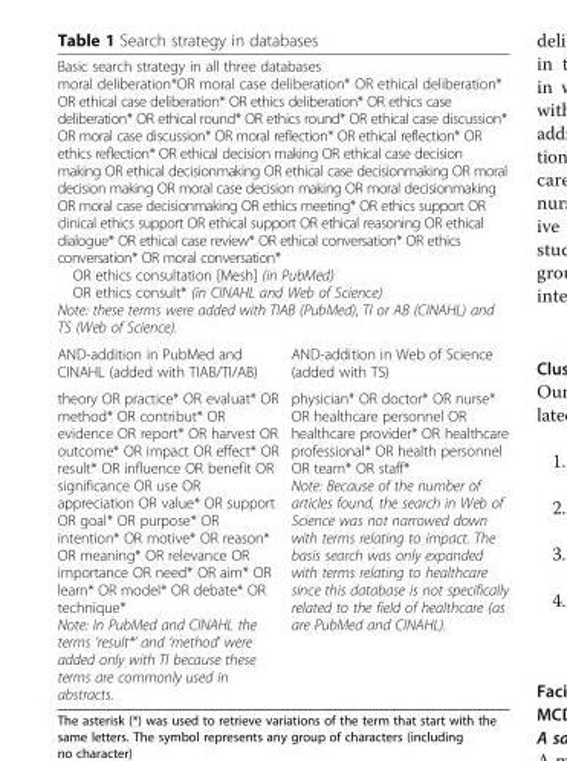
<table><tbody><tr><td colspan="2">Basic search strategy in all three databases moral deliberation*OR moral case deliberation* OR ethical deliberation* OR ethical case deliberation* OR ethics deliberation* OR ethics case deliberation* OR ethical round* OR ethics round* OR ethical case discussion* OR moral case discussion* OR moral reflection* OR ethical reflection* OR ethics reflection* OR ethical decision making OR ethical case decision making OR ethical decisionmaking OR ethical case decisionmaking OR moral decision making OR moral case decision making OR moral decisionmaking OR moral case decisionmaking OR ethics meeting* OR ethics support OR clinical ethics support OR ethical support OR ethical reasoning OR ethical dialogue* OR ethical case review* OR ethical conversation* OR ethics conversation* OR moral conversation* OR ethics consultation [Mesh] (in PubMed) OR ethics consult* (in CINAHL and Web of Science) Note: these terms were added with TIAB (PubMed), TI or AB (CINAHL) and TS (Web of Science).</td></tr><tr><td>AND-addition in PubMed and CINAHL (added with TIAB/TI/AB)</td><td>AND-addition in Web of Science (added with TS)</td></tr><tr><td>theory OR practice* OR evaluat* OR method* OR contribut* OR evidence OR report* OR harvest OR outcome* OR impact OR effect* OR result* OR influence OR benefit OR significance OR use OR appreciation OR value* OR support OR goal* OR purpose* OR intention* OR motive* OR reason* OR meaning* OR relevance OR importance OR need* OR aim* OR learn* OR model* OR debate* OR technique* Note: In PubMed and CINAHL the terms ‘result*’ and ‘method’ were added only with TI because these terms are commonly used in abstracts.</td><td>physician* OR doctor* OR nurse* OR healthcare personnel OR healthcare provider* OR healthcare professional* OR health personnel OR team* OR staff* Note: Because of the number of articles found, the search in Web of Science was not narrowed down with terms relating to impact. The basis search was only expanded with terms relating to healthcare since this database is not specifically related to the field of healthcare (as are PubMed and CINAHL).</td></tr></tbody></table>